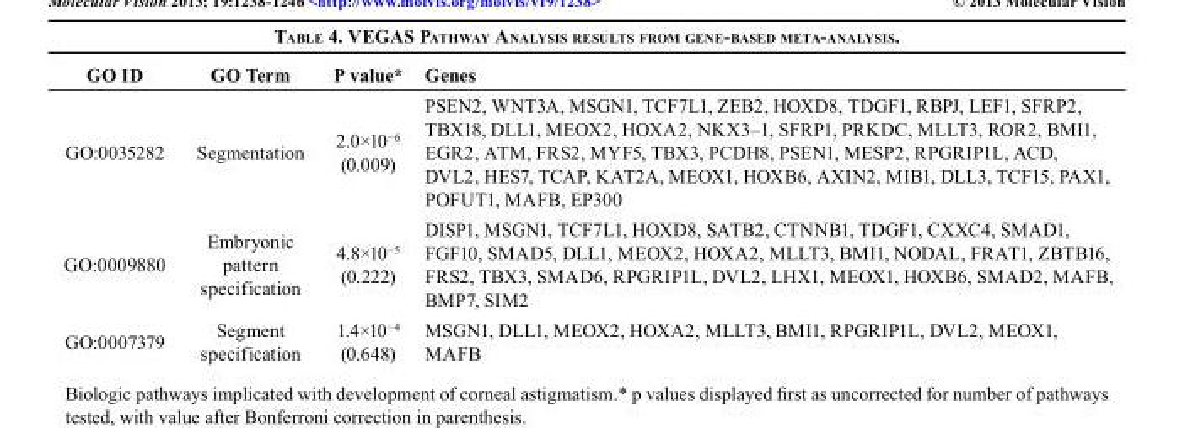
<table><thead><tr><td>GO ID</td><td>GO Term</td><td>P value*</td><td>Genes</td></tr></thead><tbody><tr><td>GO:0035282</td><td>Segmentation</td><td>2.0×10<sup>−6</sup> (0.009)</td><td>PSEN2, WNT3A, MSGN1, TCF7L1, ZEB2, HOXD8, TDGF1, RBPJ, LEF1, SFRP2, TBX18, DLL1, MEOX2, HOXA2, NKX3–1, SFRP1, PRKDC, MLLT3, ROR2, BMI1, EGR2, ATM, FRS2, MYF5, TBX3, PCDH8, PSEN1, MESP2, RPGRIP1L, ACD, DVL2, HES7, TCAP, KAT2A, MEOX1, HOXB6, AXIN2, MIB1, DLL3, TCF15, PAX1, POFUT1, MAFB, EP300</td></tr><tr><td>GO:0009880</td><td>Embryonic pattern specification</td><td>4.8×10<sup>−5</sup> (0.222)</td><td>DISP1, MSGN1, TCF7L1, HOXD8, SATB2, CTNNB1, TDGF1, CXXC4, SMAD1, FGF10, SMAD5, DLL1, MEOX2, HOXA2, MLLT3, BMI1, NODAL, FRAT1, ZBTB16, FRS2, TBX3, SMAD6, RPGRIP1L, DVL2, LHX1, MEOX1, HOXB6, SMAD2, MAFB, BMP7, SIM2</td></tr><tr><td>GO:0007379</td><td>Segment specification</td><td>1.4×10<sup>−4</sup> (0.648)</td><td>MSGN1, DLL1, MEOX2, HOXA2, MLLT3, BMI1, RPGRIP1L, DVL2, MEOX1, MAFB</td></tr></tbody></table>